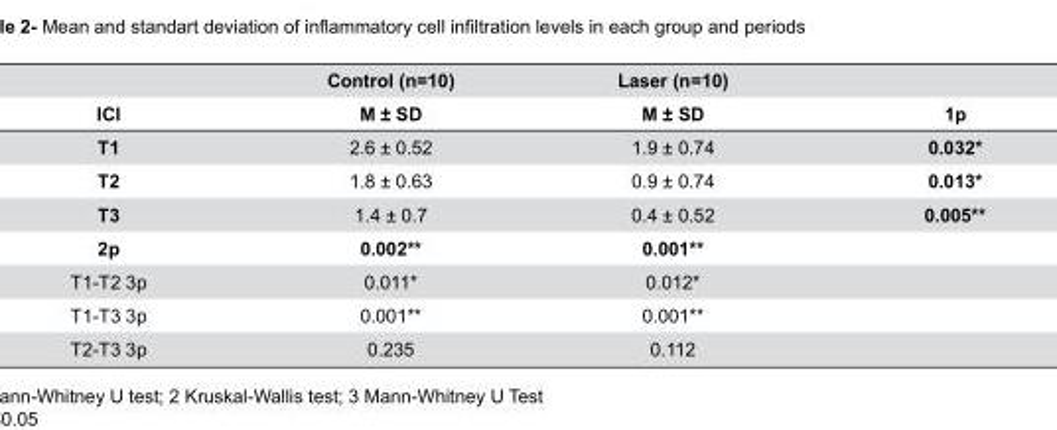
<table><thead><tr><td rowspan="2">ICI</td><td rowspan="2">Control (n=10) M ± SD</td><td rowspan="2">Laser (n=10) M ± SD</td><td rowspan="2">1p</td></tr><tr></tr></thead><tbody><tr><td>T1</td><td>2.6 ± 0.52</td><td>1.9 ± 0.74</td><td>0.032*</td></tr><tr><td>T2</td><td>1.8 ± 0.63</td><td>0.9 ± 0.74</td><td>0.013*</td></tr><tr><td>T3</td><td>1.4 ± 0.7</td><td>0.4 ± 0.52</td><td>0.005**</td></tr><tr><td>2p</td><td>0.002**</td><td>0.001**</td><td></td></tr><tr><td>T1-T2 3p</td><td>0.011*</td><td>0.012*</td><td></td></tr><tr><td>T1-T3 3p</td><td>0.001**</td><td>0.001**</td><td></td></tr><tr><td>T2-T3 3p</td><td>0.235</td><td>0.112</td><td></td></tr></tbody></table>